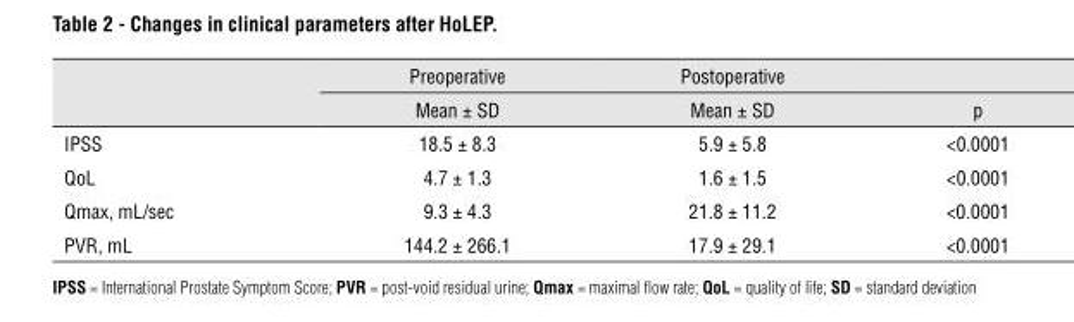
<table><thead><tr><td rowspan="2"></td><td rowspan="2">Preoperative Mean ± SD</td><td rowspan="2">Postoperative Mean ± SD</td><td rowspan="2">p</td></tr><tr></tr></thead><tbody><tr><td>IPSS</td><td>18.5 ± 8.3</td><td>5.9 ± 5.8</td><td>&lt;0.0001</td></tr><tr><td>QoL</td><td>4.7 ± 1.3</td><td>1.6 ± 1.5</td><td>&lt;0.0001</td></tr><tr><td>Qmax, mL/sec</td><td>9.3 ± 4.3</td><td>21.8 ± 11.2</td><td>&lt;0.0001</td></tr><tr><td>PVR, mL</td><td>144.2 ± 266.1</td><td>17.9 ± 29.1</td><td>&lt;0.0001</td></tr></tbody></table>